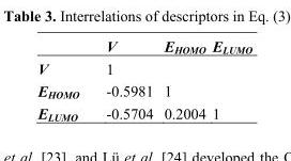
<table><thead><tr><td></td><td>V</td><td>E<sub>HOMO</sub></td><td>E<sub>LUMO</sub></td></tr></thead><tbody><tr><td>V</td><td>1</td><td></td><td></td></tr><tr><td>E<sub>HOMO</sub></td><td>-0.5981</td><td>1</td><td></td></tr><tr><td>E<sub>LUMO</sub></td><td>-0.5704</td><td>0.2004</td><td>1</td></tr></tbody></table>